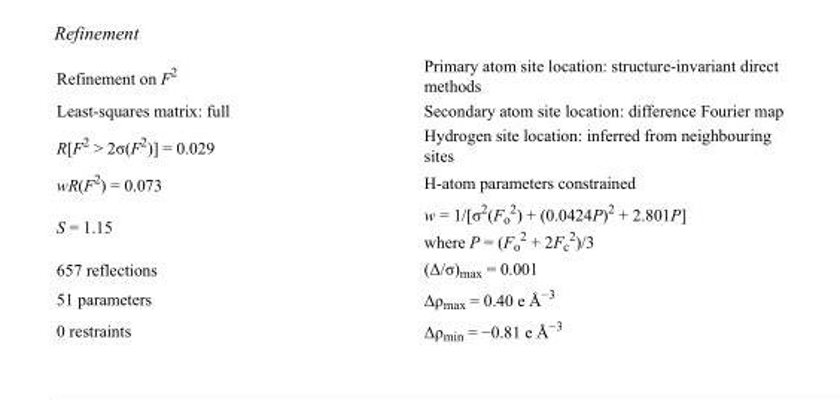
<table><tbody><tr><td>Refinement on F<sup>2</sup></td><td>Primary atom site location: structure-invariant direct methods</td></tr><tr><td>Least-squares matrix: full</td><td>Secondary atom site location: difference Fourier map</td></tr><tr><td>R[F<sup>2</sup> &gt; 2σ(F<sup>2</sup>)] = 0.029</td><td>Hydrogen site location: inferred from neighbouring sites</td></tr><tr><td>wR(F<sup>2</sup>) = 0.073</td><td>H-atom parameters constrained</td></tr><tr><td>S = 1.15</td><td>w = 1/[σ<sup>2</sup>(F<sub>o</sub> <sup>2</sup>) + (0.0424P)<sup>2</sup> + 2.801P] where P = (F<sub>o</sub> <sup>2</sup> + 2F<sub>c</sub> <sup>2</sup>)/3</td></tr><tr><td>657 reflections</td><td>(Δ/σ)<sub>max</sub> = 0.001</td></tr><tr><td>51 parameters</td><td>Δρ<sub>max</sub> = 0.40 e Å<sup>−3</sup></td></tr><tr><td>0 restraints</td><td>Δρ<sub>min</sub> = −0.81 e Å<sup>−3</sup></td></tr></tbody></table>